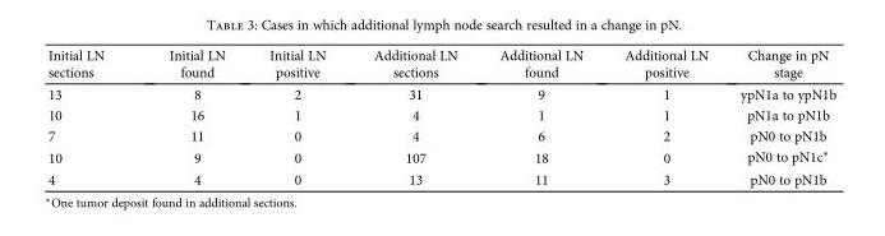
<table><thead><tr><td>Initial LN sections</td><td>Initial LN found</td><td>Initial LN positive</td><td>Additional LN sections</td><td>Additional LN found</td><td>Additional LN positive</td><td>Change in pN stage</td></tr></thead><tbody><tr><td>13</td><td>8</td><td>2</td><td>31</td><td>9</td><td>1</td><td>ypN1a to ypN1b</td></tr><tr><td>10</td><td>16</td><td>1</td><td>4</td><td>1</td><td>1</td><td>pN1a to pN1b</td></tr><tr><td>7</td><td>11</td><td>0</td><td>4</td><td>6</td><td>2</td><td>pN0 to pN1b</td></tr><tr><td>10</td><td>9</td><td>0</td><td>107</td><td>18</td><td>0</td><td>pN0 to pN1c∗</td></tr><tr><td>4</td><td>4</td><td>0</td><td>13</td><td>11</td><td>3</td><td>pN0 to pN1b</td></tr></tbody></table>